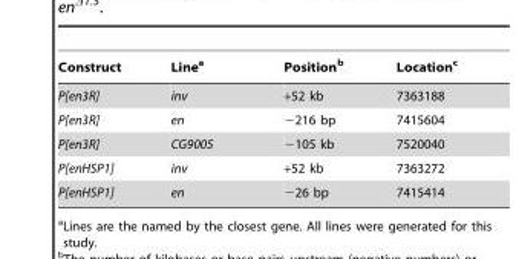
<table><thead><tr><td>Construct</td><td>Line<sup>a</sup></td><td>Position<sup>b</sup></td><td>Location<sup>c</sup></td></tr></thead><tbody><tr><td>P[en3R]</td><td>inv</td><td>+52 kb</td><td>7363188</td></tr><tr><td>P[en3R]</td><td>en</td><td>−216 bp</td><td>7415604</td></tr><tr><td>P[en3R]</td><td>CG9005</td><td>−105 kb</td><td>7520040</td></tr><tr><td>P[enHSP1]</td><td>inv</td><td>+52 kb</td><td>7363272</td></tr><tr><td>P[enHSP1]</td><td>en</td><td>−26 bp</td><td>7415414</td></tr></tbody></table>